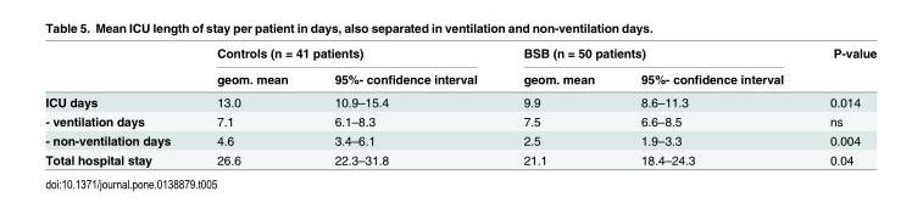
<table><thead><tr><td rowspan="2"></td><td colspan="2">Controls (n = 41 patients)</td><td colspan="2">BSB (n = 50 patients)</td><td rowspan="2">P-value</td></tr><tr><td>geom. mean</td><td>95%- confidence interval</td><td>geom. mean</td><td>95%- confidence interval</td></tr></thead><tbody><tr><td>ICU days</td><td>13.0</td><td>10.9–15.4</td><td>9.9</td><td>8.6–11.3</td><td>0.014</td></tr><tr><td>- ventilation days</td><td>7.1</td><td>6.1–8.3</td><td>7.5</td><td>6.6–8.5</td><td>ns</td></tr><tr><td>- non-ventilation days</td><td>4.6</td><td>3.4–6.1</td><td>2.5</td><td>1.9–3.3</td><td>0.004</td></tr><tr><td>Total hospital stay</td><td>26.6</td><td>22.3–31.8</td><td>21.1</td><td>18.4–24.3</td><td>0.04</td></tr></tbody></table>